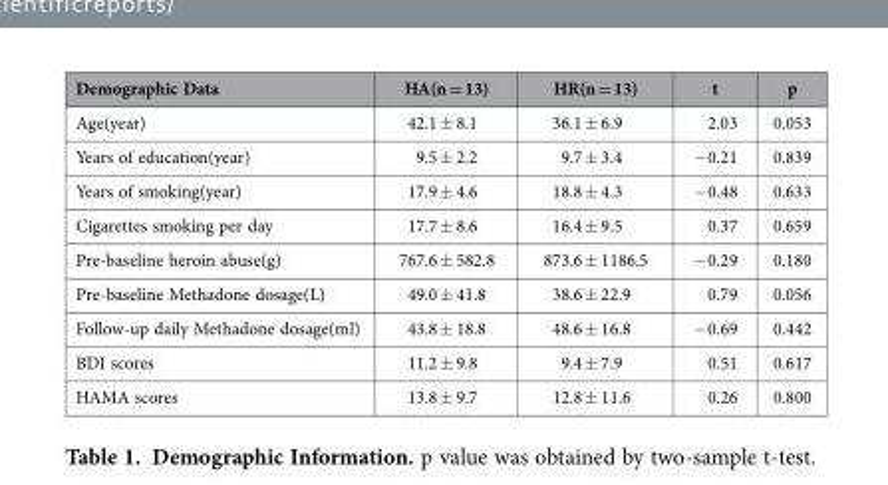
<table><thead><tr><td>Demographic Data</td><td>HA(n = 13)</td><td>HR(n = 13)</td><td>t</td><td>p</td></tr></thead><tbody><tr><td>Age(year)</td><td>42.1 ± 8.1</td><td>36.1 ± 6.9</td><td>2.03</td><td>0.053</td></tr><tr><td>Years of education(year)</td><td>9.5 ± 2.2</td><td>9.7 ± 3.4</td><td>− 0.21</td><td>0.839</td></tr><tr><td>Years of smoking(year)</td><td>17.9 ± 4.6</td><td>18.8 ± 4.3</td><td>− 0.48</td><td>0.633</td></tr><tr><td>Cigarettes smoking per day</td><td>17.7 ± 8.6</td><td>16.4 ± 9.5</td><td>0.37</td><td>0.659</td></tr><tr><td>Pre-baseline heroin abuse(g)</td><td>767.6 ± 582.8</td><td>873.6 ± 1186.5</td><td>− 0.29</td><td>0.180</td></tr><tr><td>Pre-baseline Methadone dosage(L)</td><td>49.0 ± 41.8</td><td>38.6 ± 22.9</td><td>0.79</td><td>0.056</td></tr><tr><td>Follow-up daily Methadone dosage(ml)</td><td>43.8 ± 18.8</td><td>48.6 ± 16.8</td><td>− 0.69</td><td>0.442</td></tr><tr><td>BDI scores</td><td>11.2 ± 9.8</td><td>9.4 ± 7.9</td><td>0.51</td><td>0.617</td></tr><tr><td>HAMA scores</td><td>13.8 ± 9.7</td><td>12.8 ± 11.6</td><td>0.26</td><td>0.800</td></tr></tbody></table>